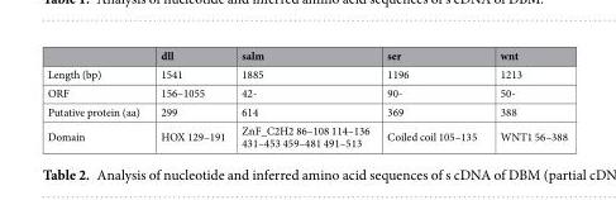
<table><thead><tr><td></td><td>dll</td><td>salm</td><td>ser</td><td>wnt</td></tr></thead><tbody><tr><td>Length (bp)</td><td>1541</td><td>1885</td><td>1196</td><td>1213</td></tr><tr><td>ORF</td><td>156–1055</td><td>42-</td><td>90-</td><td>50-</td></tr><tr><td>Putative protein (aa)</td><td>299</td><td>614</td><td>369</td><td>388</td></tr><tr><td>Domain</td><td>HOX 129–191</td><td>ZnF_C2H2 86–108 114–136 431–453 459–481 491–513</td><td>Coiled coil 105–135</td><td>WNT1 56–388</td></tr></tbody></table>